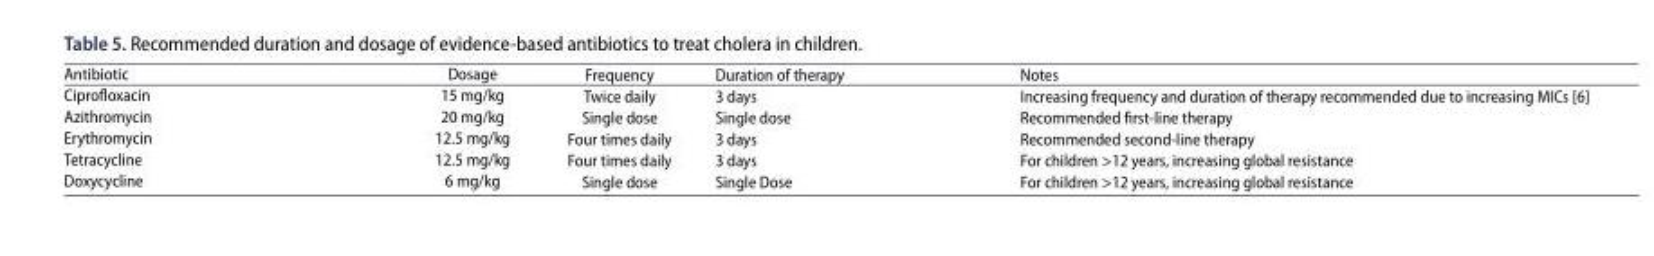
<table><thead><tr><td>antibiotic</td><td>dosage</td><td>Frequency</td><td>duration of therapy</td><td>notes</td></tr></thead><tbody><tr><td>ciprofloxacin</td><td>15 mg/kg</td><td>twice daily</td><td>3 days</td><td>increasing frequency and duration of therapy recommended due to increasing Mics [6]</td></tr><tr><td>azithromycin</td><td>20 mg/kg</td><td>single dose</td><td>single dose</td><td>recommended first-line therapy</td></tr><tr><td>erythromycin</td><td>12.5 mg/kg</td><td>Four times daily</td><td>3 days</td><td>recommended second-line therapy</td></tr><tr><td>tetracycline</td><td>12.5 mg/kg</td><td>Four times daily</td><td>3 days</td><td>For children &gt;12 years, increasing global resistance</td></tr><tr><td>doxycycline</td><td>6 mg/kg</td><td>single dose</td><td>single dose</td><td>For children &gt;12 years, increasing global resistance</td></tr></tbody></table>